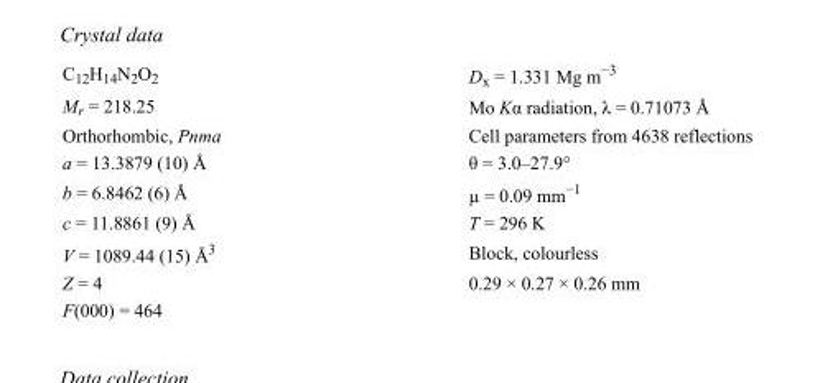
<table><tbody><tr><td>C<sub>12</sub>H<sub>14</sub>N<sub>2</sub>O<sub>2</sub></td><td>D<sub>x</sub> = 1.331 Mg m<sup>−3</sup></td></tr><tr><td>M<sub>r</sub> = 218.25</td><td>Mo Kα radiation, λ = 0.71073 Å</td></tr><tr><td>Orthorhombic, Pnma</td><td>Cell parameters from 4638 reflections</td></tr><tr><td>a = 13.3879 (10) Å</td><td>θ = 3.0–27.9°</td></tr><tr><td>b = 6.8462 (6) Å</td><td>µ = 0.09 mm<sup>−1</sup></td></tr><tr><td>c = 11.8861 (9) Å</td><td>T = 296 K</td></tr><tr><td>V = 1089.44 (15) Å<sup>3</sup></td><td>Block, colourless</td></tr><tr><td>Z = 4</td><td>0.29 × 0.27 × 0.26 mm</td></tr><tr><td>F(000) = 464</td><td></td></tr></tbody></table>